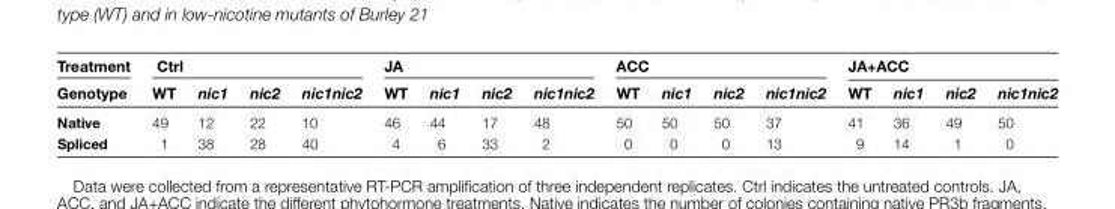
<table><thead><tr><td rowspan="2">Treatment Genotype</td><td colspan="4">Ctrl</td><td colspan="4">JA</td><td colspan="4">ACC</td><td colspan="4">JA+ACC</td></tr><tr><td>WT</td><td>nic1</td><td>nic2</td><td>nic1nic2</td><td>WT</td><td>nic1</td><td>nic2</td><td>nic1nic2</td><td>WT</td><td>nic1</td><td>nic2</td><td>nic1nic2</td><td>WT</td><td>nic1</td><td>nic2</td><td>nic1nic2</td></tr></thead><tbody><tr><td>Native</td><td>49</td><td>12</td><td>22</td><td>10</td><td>46</td><td>44</td><td>17</td><td>48</td><td>50</td><td>50</td><td>50</td><td>37</td><td>41</td><td>36</td><td>49</td><td>50</td></tr><tr><td>Spliced</td><td>1</td><td>38</td><td>28</td><td>40</td><td>4</td><td>6</td><td>33</td><td>2</td><td>0</td><td>0</td><td>0</td><td>13</td><td>9</td><td>14</td><td>1</td><td>0</td></tr></tbody></table>